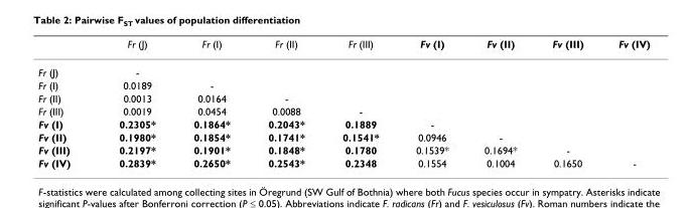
<table><thead><tr><td></td><td>Fr (J)</td><td>Fr (I)</td><td>Fr (II)</td><td>Fr (III)</td><td>Fv (I)</td><td>Fv (II)</td><td>Fv (III)</td><td>Fv (IV)</td></tr></thead><tbody><tr><td>Fr (J)</td><td>-</td><td></td><td></td><td></td><td></td><td></td><td></td><td></td></tr><tr><td>Fr (I)</td><td>0.0189</td><td>-</td><td></td><td></td><td></td><td></td><td></td><td></td></tr><tr><td>Fr (II)</td><td>0.0013</td><td>0.0164</td><td>-</td><td></td><td></td><td></td><td></td><td></td></tr><tr><td>Fr (III)</td><td>0.0019</td><td>0.0454</td><td>0.0088</td><td>-</td><td></td><td></td><td></td><td></td></tr><tr><td>Fv (I)</td><td>0.2305*</td><td>0.1864*</td><td>0.2043*</td><td>0.1889</td><td>-</td><td></td><td></td><td></td></tr><tr><td>Fv (II)</td><td>0.1980*</td><td>0.1854*</td><td>0.1741*</td><td>0.1541*</td><td>0.0946</td><td>-</td><td></td><td></td></tr><tr><td>Fv (III)</td><td>0.2197*</td><td>0.1901*</td><td>0.1848*</td><td>0.1780</td><td>0.1539*</td><td>0.1694*</td><td>-</td><td></td></tr><tr><td>Fv (IV)</td><td>0.2839*</td><td>0.2650*</td><td>0.2543*</td><td>0.2348</td><td>0.1554</td><td>0.1004</td><td>0.1650</td><td>-</td></tr></tbody></table>